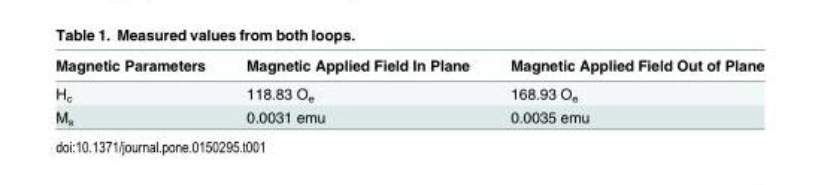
<table><thead><tr><td>Magnetic Parameters</td><td>Magnetic Applied Field In Plane</td><td>Magnetic Applied Field Out of Plane</td></tr></thead><tbody><tr><td>H<sub>c</sub></td><td>118.83 O<sub>e</sub></td><td>168.93 O<sub>e</sub></td></tr><tr><td>M<sub>s</sub></td><td>0.0031 emu</td><td>0.0035 emu</td></tr></tbody></table>